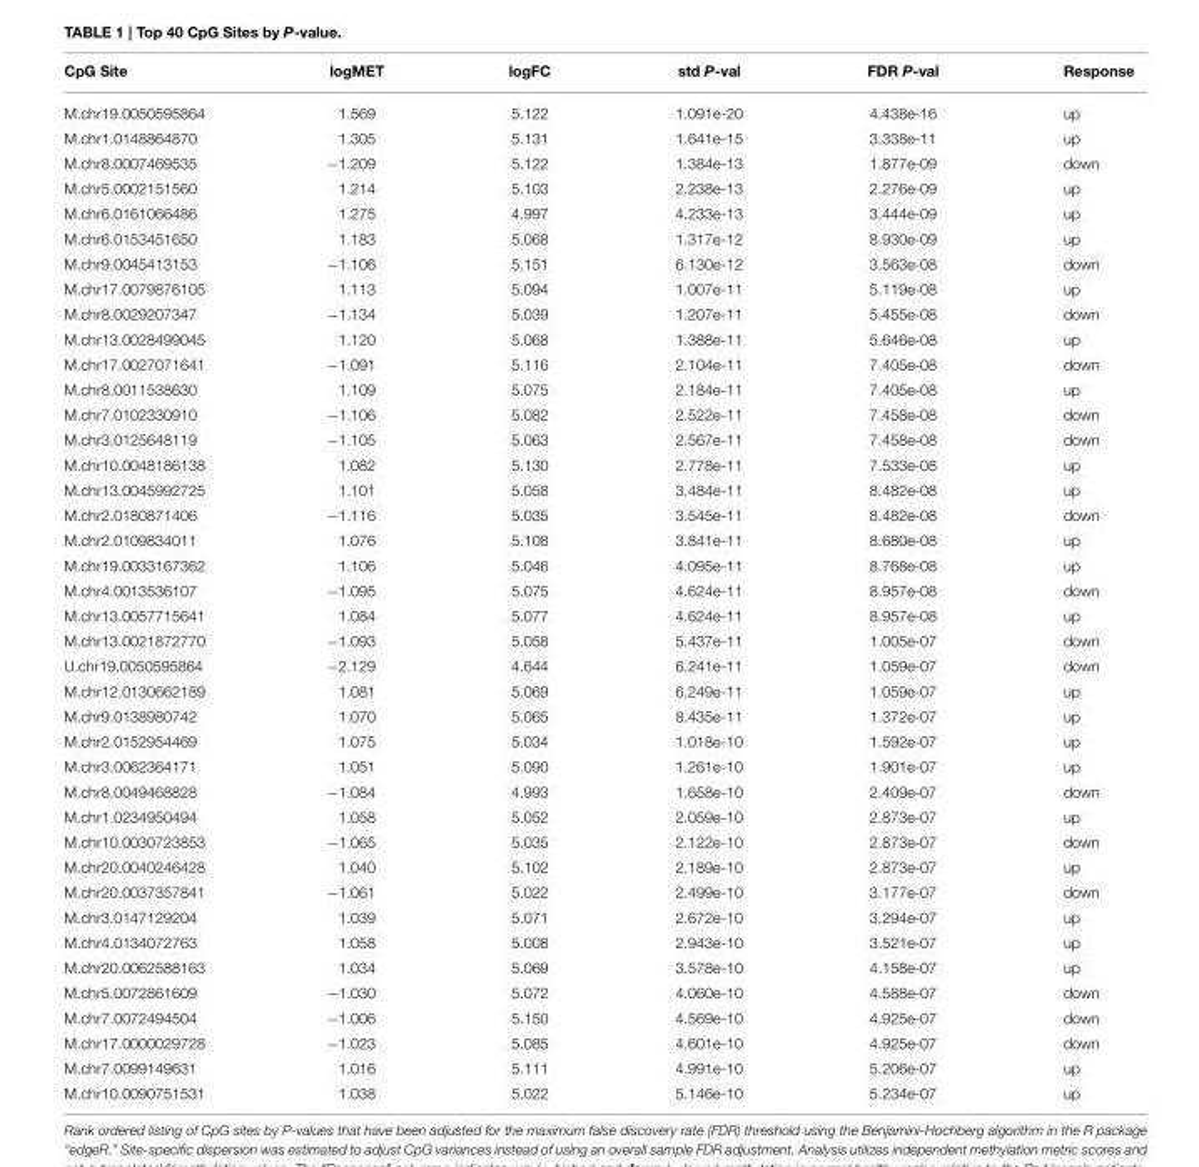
<table><thead><tr><td>CpG Site</td><td>logMET</td><td>logFC</td><td>std P-val</td><td>FDR P-val</td><td>Response</td></tr></thead><tbody><tr><td>M.chr19.0050595864</td><td>1.569</td><td>5.122</td><td>1.091e-20</td><td>4.438e-16</td><td>up</td></tr><tr><td>M.chr1.0148864870</td><td>1.305</td><td>5.131</td><td>1.641e-15</td><td>3.338e-11</td><td>up</td></tr><tr><td>M.chr8.0007469535</td><td>−1.209</td><td>5.122</td><td>1.384e-13</td><td>1.877e-09</td><td>down</td></tr><tr><td>M.chr5.0002151560</td><td>1.214</td><td>5.103</td><td>2.238e-13</td><td>2.276e-09</td><td>up</td></tr><tr><td>M.chr6.0161066486</td><td>1.275</td><td>4.997</td><td>4.233e-13</td><td>3.444e-09</td><td>up</td></tr><tr><td>M.chr6.0153451650</td><td>1.183</td><td>5.068</td><td>1.317e-12</td><td>8.930e-09</td><td>up</td></tr><tr><td>M.chr9.0045413153</td><td>−1.106</td><td>5.151</td><td>6.130e-12</td><td>3.563e-08</td><td>down</td></tr><tr><td>M.chr17.0079876105</td><td>1.113</td><td>5.094</td><td>1.007e-11</td><td>5.119e-08</td><td>up</td></tr><tr><td>M.chr8.0029207347</td><td>−1.134</td><td>5.039</td><td>1.207e-11</td><td>5.455e-08</td><td>down</td></tr><tr><td>M.chr13.0028499045</td><td>1.120</td><td>5.068</td><td>1.388e-11</td><td>5.646e-08</td><td>up</td></tr><tr><td>M.chr17.0027071641</td><td>−1.091</td><td>5.116</td><td>2.104e-11</td><td>7.405e-08</td><td>down</td></tr><tr><td>M.chr8.0011538630</td><td>1.109</td><td>5.075</td><td>2.184e-11</td><td>7.405e-08</td><td>up</td></tr><tr><td>M.chr7.0102330910</td><td>−1.106</td><td>5.082</td><td>2.522e-11</td><td>7.458e-08</td><td>down</td></tr><tr><td>M.chr3.0125648119</td><td>−1.105</td><td>5.063</td><td>2.567e-11</td><td>7.458e-08</td><td>down</td></tr><tr><td>M.chr10.0048186138</td><td>1.082</td><td>5.130</td><td>2.778e-11</td><td>7.533e-08</td><td>up</td></tr><tr><td>M.chr13.0045992725</td><td>1.101</td><td>5.058</td><td>3.484e-11</td><td>8.482e-08</td><td>up</td></tr><tr><td>M.chr2.0180871406</td><td>−1.116</td><td>5.035</td><td>3.545e-11</td><td>8.482e-08</td><td>down</td></tr><tr><td>M.chr2.0109834011</td><td>1.076</td><td>5.108</td><td>3.841e-11</td><td>8.680e-08</td><td>up</td></tr><tr><td>M.chr19.0033167362</td><td>1.106</td><td>5.046</td><td>4.095e-11</td><td>8.768e-08</td><td>up</td></tr><tr><td>M.chr4.0013536107</td><td>−1.095</td><td>5.075</td><td>4.624e-11</td><td>8.957e-08</td><td>down</td></tr><tr><td>M.chr13.0057715641</td><td>1.084</td><td>5.077</td><td>4.624e-11</td><td>8.957e-08</td><td>up</td></tr><tr><td>M.chr13.0021872770</td><td>−1.093</td><td>5.058</td><td>5.437e-11</td><td>1.005e-07</td><td>down</td></tr><tr><td>U.chr19.0050595864</td><td>−2.129</td><td>4.644</td><td>6.241e-11</td><td>1.059e-07</td><td>down</td></tr><tr><td>M.chr12.0130662189</td><td>1.081</td><td>5.069</td><td>6.249e-11</td><td>1.059e-07</td><td>up</td></tr><tr><td>M.chr9.0138980742</td><td>1.070</td><td>5.065</td><td>8.435e-11</td><td>1.372e-07</td><td>up</td></tr><tr><td>M.chr2.0152954469</td><td>1.075</td><td>5.034</td><td>1.018e-10</td><td>1.592e-07</td><td>up</td></tr><tr><td>M.chr3.0062364171</td><td>1.051</td><td>5.090</td><td>1.261e-10</td><td>1.901e-07</td><td>up</td></tr><tr><td>M.chr8.0049468828</td><td>−1.084</td><td>4.993</td><td>1.658e-10</td><td>2.409e-07</td><td>down</td></tr><tr><td>M.chr1.0234950494</td><td>1.058</td><td>5.052</td><td>2.059e-10</td><td>2.873e-07</td><td>up</td></tr><tr><td>M.chr10.0030723853</td><td>−1.065</td><td>5.035</td><td>2.122e-10</td><td>2.873e-07</td><td>down</td></tr><tr><td>M.chr20.0040246428</td><td>1.040</td><td>5.102</td><td>2.189e-10</td><td>2.873e-07</td><td>up</td></tr><tr><td>M.chr20.0037357841</td><td>−1.061</td><td>5.022</td><td>2.499e-10</td><td>3.177e-07</td><td>down</td></tr><tr><td>M.chr3.0147129204</td><td>1.039</td><td>5.071</td><td>2.672e-10</td><td>3.294e-07</td><td>up</td></tr><tr><td>M.chr4.0134072763</td><td>1.058</td><td>5.008</td><td>2.943e-10</td><td>3.521e-07</td><td>up</td></tr><tr><td>M.chr20.0062588163</td><td>1.034</td><td>5.069</td><td>3.578e-10</td><td>4.158e-07</td><td>up</td></tr><tr><td>M.chr5.0072861609</td><td>−1.030</td><td>5.072</td><td>4.060e-10</td><td>4.588e-07</td><td>down</td></tr><tr><td>M.chr7.0072494504</td><td>−1.006</td><td>5.150</td><td>4.569e-10</td><td>4.925e-07</td><td>down</td></tr><tr><td>M.chr17.0000029728</td><td>−1.023</td><td>5.085</td><td>4.601e-10</td><td>4.925e-07</td><td>down</td></tr><tr><td>M.chr7.0099149631</td><td>1.016</td><td>5.111</td><td>4.991e-10</td><td>5.206e-07</td><td>up</td></tr><tr><td>M.chr10.0090751531</td><td>1.038</td><td>5.022</td><td>5.146e-10</td><td>5.234e-07</td><td>up</td></tr></tbody></table>